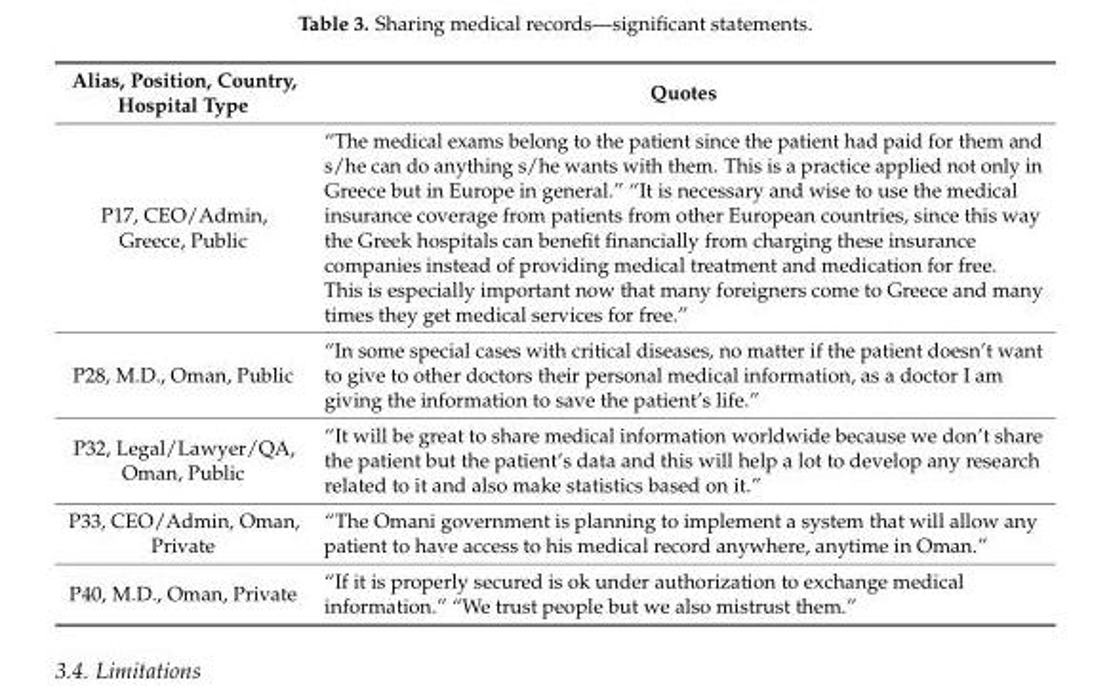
<table><thead><tr><td>Alias, Position, Country, Hospital Type</td><td>Quotes</td></tr></thead><tbody><tr><td>P17, CEO/Admin, Greece, Public</td><td>“The medical exams belong to the patient since the patient had paid for them and s/he can do anything s/he wants with them. This is a practice applied not only in Greece but in Europe in general.” “It is necessary and wise to use the medical insurance coverage from patients from other European countries, since this way the Greek hospitals can benefit financially from charging these insurance companies instead of providing medical treatment and medication for free. This is especially important now that many foreigners come to Greece and many times they get medical services for free.”</td></tr><tr><td>P28, M.D., Oman, Public</td><td>“In some special cases with critical diseases, no matter if the patient doesn’t want to give to other doctors their personal medical information, as a doctor I am giving the information to save the patient’s life.”</td></tr><tr><td>P32, Legal/Lawyer/QA, Oman, Public</td><td>“It will be great to share medical information worldwide because we don’t share the patient but the patient’s data and this will help a lot to develop any research related to it and also make statistics based on it.”</td></tr><tr><td>P33, CEO/Admin, Oman, Private</td><td>“The Omani government is planning to implement a system that will allow any patient to have access to his medical record anywhere, anytime in Oman.”</td></tr><tr><td>P40, M.D., Oman, Private</td><td>“If it is properly secured is ok under authorization to exchange medical information.” “We trust people but we also mistrust them.”</td></tr></tbody></table>